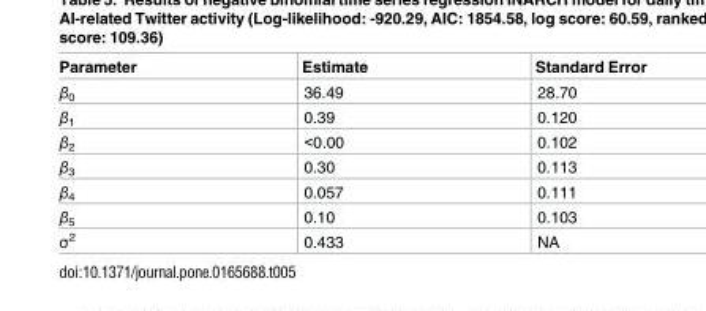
<table><thead><tr><td>Parameter</td><td>Estimate</td><td>Standard Error</td></tr></thead><tbody><tr><td>β<sub>0</sub></td><td>36.49</td><td>28.70</td></tr><tr><td>β<sub>1</sub></td><td>0.39</td><td>0.120</td></tr><tr><td>β<sub>2</sub></td><td>&lt;0.00</td><td>0.102</td></tr><tr><td>β<sub>3</sub></td><td>0.30</td><td>0.113</td></tr><tr><td>β<sub>4</sub></td><td>0.057</td><td>0.111</td></tr><tr><td>β<sub>5</sub></td><td>0.10</td><td>0.103</td></tr><tr><td>σ<sup>2</sup></td><td>0.433</td><td>NA</td></tr></tbody></table>